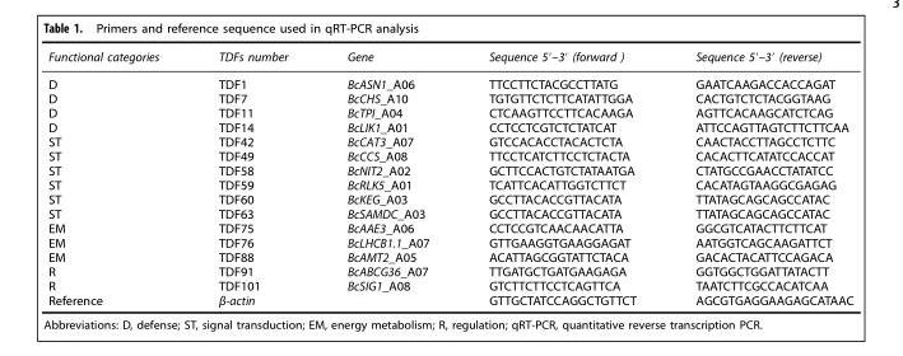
<table><thead><tr><td>Functional categories</td><td>TDFs number</td><td>Gene</td><td>Sequence 5′–3′ (forward )</td><td>Sequence 5′–3′ (reverse)</td></tr></thead><tbody><tr><td>D</td><td>TDF1</td><td>BcASN1_A06</td><td>TTCCTTCTACGCCTTATG</td><td>GAATCAAGACCACCAGAT</td></tr><tr><td>D</td><td>TDF7</td><td>BcCHS_A10</td><td>TGTGTTCTCTTCATATTGGA</td><td>CACTGTCTCTACGGTAAG</td></tr><tr><td>D</td><td>TDF11</td><td>BcTPI_A04</td><td>CTCAAGTTCCTTCACAAGA</td><td>AGTTCACAAGCATCTCAG</td></tr><tr><td>D</td><td>TDF14</td><td>BcLIK1_A01</td><td>CCTCCTCGTCTCTATCAT</td><td>ATTCCAGTTAGTCTTCTTCAA</td></tr><tr><td>ST</td><td>TDF42</td><td>BcCAT3_A07</td><td>GTCCACACCTACACTCTA</td><td>CAACTACCTTAGCCTCTTC</td></tr><tr><td>ST</td><td>TDF49</td><td>BcCCS_A08</td><td>TTCCTCATCTTCCTCTACTA</td><td>CACACTTCATATCCACCAT</td></tr><tr><td>ST</td><td>TDF58</td><td>BcNIT2_A02</td><td>GCTTCCACTGTCTATAATGA</td><td>CTATGCCGAACCTATATCC</td></tr><tr><td>ST</td><td>TDF59</td><td>BcRLK5_A01</td><td>TCATTCACATTGGTCTTCT</td><td>CACATAGTAAGGCGAGAG</td></tr><tr><td>ST</td><td>TDF60</td><td>BcKEG_A03</td><td>GCCTTACACCGTTACATA</td><td>TTATAGCAGCAGCCATAC</td></tr><tr><td>ST</td><td>TDF63</td><td>BcSAMDC_A03</td><td>GCCTTACACCGTTACATA</td><td>TTATAGCAGCAGCCATAC</td></tr><tr><td>EM</td><td>TDF75</td><td>BcAAE3_A06</td><td>CCTCCGTCAACAACATTA</td><td>GGCGTCATACTTCTTCAT</td></tr><tr><td>EM</td><td>TDF76</td><td>BcLHCB1.1_A07</td><td>GTTGAAGGTGAAGGAGAT</td><td>AATGGTCAGCAAGATTCT</td></tr><tr><td>EM</td><td>TDF88</td><td>BcAMT2_A05</td><td>ACATTAGCGGTATTCTACA</td><td>GACACTACATTCCAGACA</td></tr><tr><td>R</td><td>TDF91</td><td>BcABCG36_A07</td><td>TTGATGCTGATGAAGAGA</td><td>GGTGGCTGGATTATACTT</td></tr><tr><td>R</td><td>TDF101</td><td>BcSIG1_A08</td><td>GTCTTCTTCCTCAGTTCA</td><td>TAATCTTCGCCACATCAA</td></tr><tr><td>Reference</td><td>β-actin</td><td></td><td>GTTGCTATCCAGGCTGTTCT</td><td>AGCGTGAGGAAGAGCATAAC</td></tr></tbody></table>